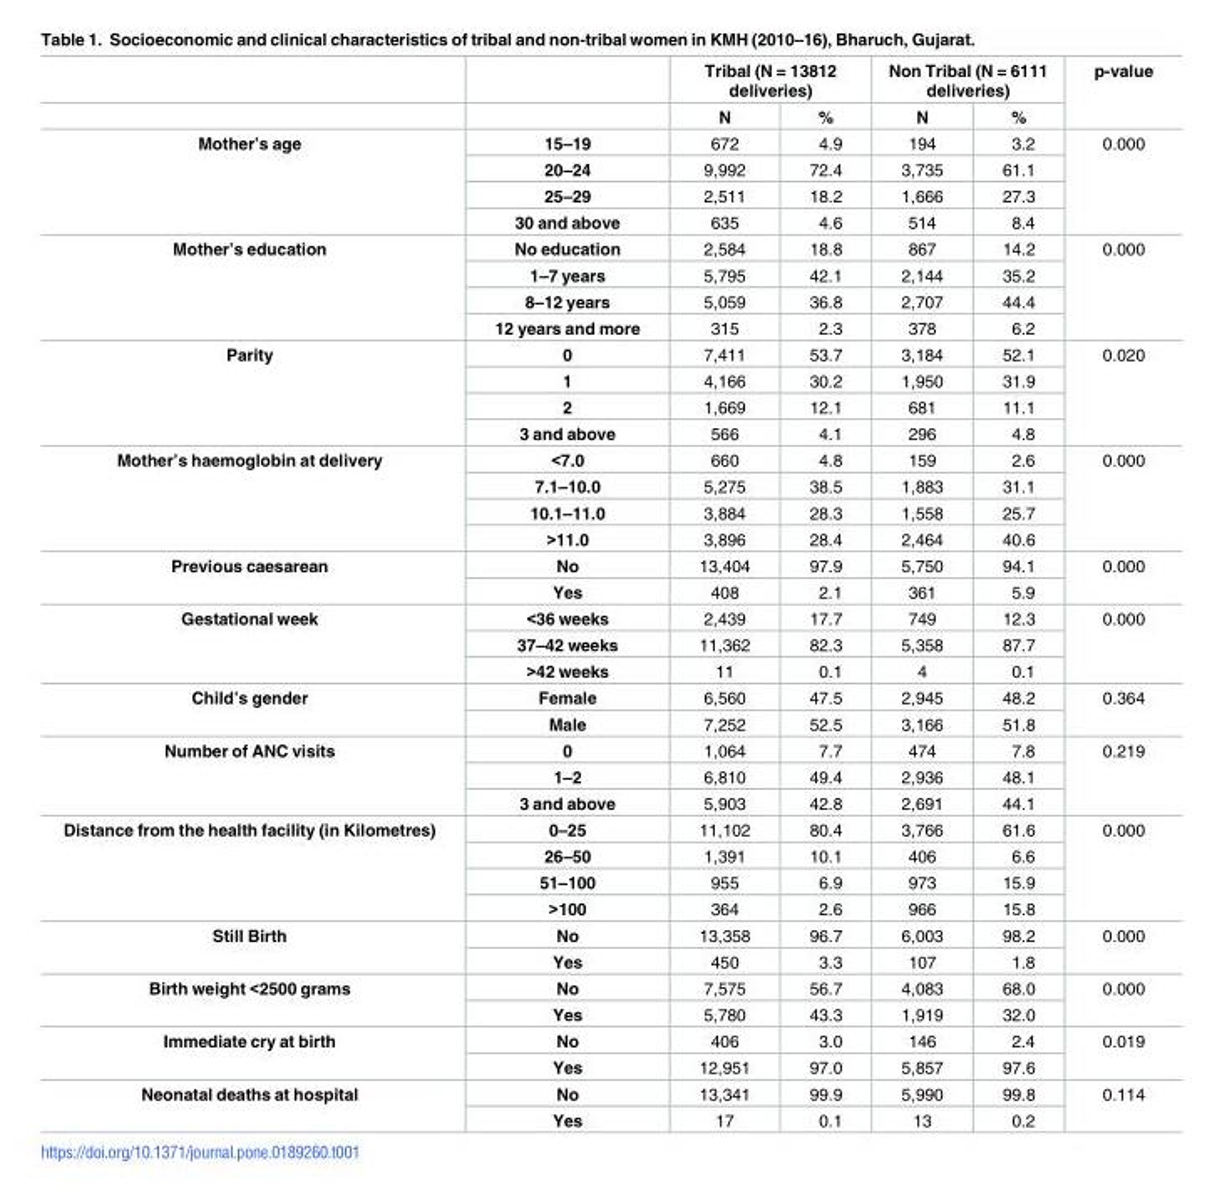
<table><thead><tr><td rowspan="2"></td><td rowspan="2"></td><td colspan="2">Tribal (N = 13812 deliveries)</td><td colspan="2">Non Tribal (N = 6111 deliveries)</td><td rowspan="2">p-value</td></tr><tr><td>N</td><td>%</td><td>N</td><td>%</td></tr></thead><tbody><tr><td rowspan="4">Mother’s age</td><td>15–19</td><td>672</td><td>4.9</td><td>194</td><td>3.2</td><td rowspan="4">0.000</td></tr><tr><td>20–24</td><td>9,992</td><td>72.4</td><td>3,735</td><td>61.1</td></tr><tr><td>25–29</td><td>2,511</td><td>18.2</td><td>1,666</td><td>27.3</td></tr><tr><td>30 and above</td><td>635</td><td>4.6</td><td>514</td><td>8.4</td></tr><tr><td rowspan="4">Mother’s education</td><td>No education</td><td>2,584</td><td>18.8</td><td>867</td><td>14.2</td><td rowspan="4">0.000</td></tr><tr><td>1–7 years</td><td>5,795</td><td>42.1</td><td>2,144</td><td>35.2</td></tr><tr><td>8–12 years</td><td>5,059</td><td>36.8</td><td>2,707</td><td>44.4</td></tr><tr><td>12 years and more</td><td>315</td><td>2.3</td><td>378</td><td>6.2</td></tr><tr><td rowspan="4">Parity</td><td>0</td><td>7,411</td><td>53.7</td><td>3,184</td><td>52.1</td><td rowspan="4">0.020</td></tr><tr><td>1</td><td>4,166</td><td>30.2</td><td>1,950</td><td>31.9</td></tr><tr><td>2</td><td>1,669</td><td>12.1</td><td>681</td><td>11.1</td></tr><tr><td>3 and above</td><td>566</td><td>4.1</td><td>296</td><td>4.8</td></tr><tr><td rowspan="4">Mother’s haemoglobin at delivery</td><td>&lt;7.0</td><td>660</td><td>4.8</td><td>159</td><td>2.6</td><td rowspan="4">0.000</td></tr><tr><td>7.1–10.0</td><td>5,275</td><td>38.5</td><td>1,883</td><td>31.1</td></tr><tr><td>10.1–11.0</td><td>3,884</td><td>28.3</td><td>1,558</td><td>25.7</td></tr><tr><td>&gt;11.0</td><td>3,896</td><td>28.4</td><td>2,464</td><td>40.6</td></tr><tr><td rowspan="2">Previous caesarean</td><td>No</td><td>13,404</td><td>97.9</td><td>5,750</td><td>94.1</td><td rowspan="2">0.000</td></tr><tr><td>Yes</td><td>408</td><td>2.1</td><td>361</td><td>5.9</td></tr><tr><td rowspan="3">Gestational week</td><td>&lt;36 weeks</td><td>2,439</td><td>17.7</td><td>749</td><td>12.3</td><td rowspan="3">0.000</td></tr><tr><td>37–42 weeks</td><td>11,362</td><td>82.3</td><td>5,358</td><td>87.7</td></tr><tr><td>&gt;42 weeks</td><td>11</td><td>0.1</td><td>4</td><td>0.1</td></tr><tr><td rowspan="2">Child’s gender</td><td>Female</td><td>6,560</td><td>47.5</td><td>2,945</td><td>48.2</td><td rowspan="2">0.364</td></tr><tr><td>Male</td><td>7,252</td><td>52.5</td><td>3,166</td><td>51.8</td></tr><tr><td rowspan="3">Number of ANC visits</td><td>0</td><td>1,064</td><td>7.7</td><td>474</td><td>7.8</td><td rowspan="3">0.219</td></tr><tr><td>1–2</td><td>6,810</td><td>49.4</td><td>2,936</td><td>48.1</td></tr><tr><td>3 and above</td><td>5,903</td><td>42.8</td><td>2,691</td><td>44.1</td></tr><tr><td rowspan="4">Distance from the health facility (in Kilometres)</td><td>0–25</td><td>11,102</td><td>80.4</td><td>3,766</td><td>61.6</td><td rowspan="4">0.000</td></tr><tr><td>26–50</td><td>1,391</td><td>10.1</td><td>406</td><td>6.6</td></tr><tr><td>51–100</td><td>955</td><td>6.9</td><td>973</td><td>15.9</td></tr><tr><td>&gt;100</td><td>364</td><td>2.6</td><td>966</td><td>15.8</td></tr><tr><td rowspan="2">Still Birth</td><td>No</td><td>13,358</td><td>96.7</td><td>6,003</td><td>98.2</td><td rowspan="2">0.000</td></tr><tr><td>Yes</td><td>450</td><td>3.3</td><td>107</td><td>1.8</td></tr><tr><td rowspan="2">Birth weight &lt;2500 grams</td><td>No</td><td>7,575</td><td>56.7</td><td>4,083</td><td>68.0</td><td rowspan="2">0.000</td></tr><tr><td>Yes</td><td>5,780</td><td>43.3</td><td>1,919</td><td>32.0</td></tr><tr><td rowspan="2">Immediate cry at birth</td><td>No</td><td>406</td><td>3.0</td><td>146</td><td>2.4</td><td rowspan="2">0.019</td></tr><tr><td>Yes</td><td>12,951</td><td>97.0</td><td>5,857</td><td>97.6</td></tr><tr><td rowspan="2">Neonatal deaths at hospital</td><td>No</td><td>13,341</td><td>99.9</td><td>5,990</td><td>99.8</td><td rowspan="2">0.114</td></tr><tr><td>Yes</td><td>17</td><td>0.1</td><td>13</td><td>0.2</td></tr></tbody></table>